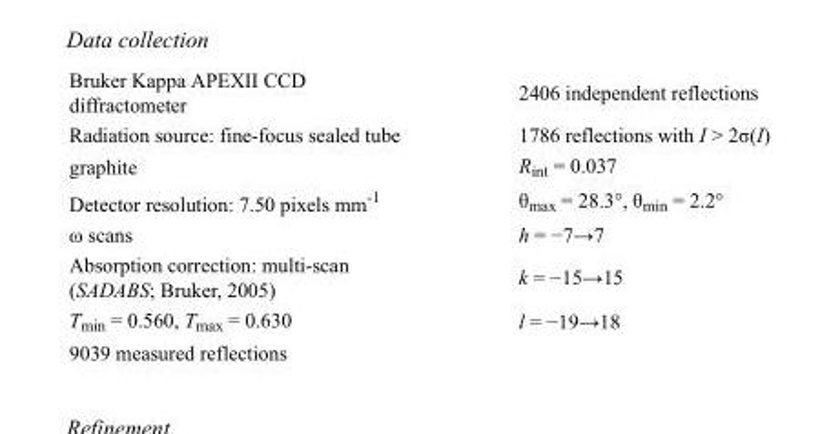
<table><tbody><tr><td>Bruker Kappa APEXII CCD diffractometer</td><td>2406 independent reflections</td></tr><tr><td>Radiation source: fine-focus sealed tube</td><td>1786 reflections with I &gt; 2σ(I)</td></tr><tr><td>graphite</td><td>R<sub>int</sub> = 0.037</td></tr><tr><td>Detector resolution: 7.50 pixels mm<sup>-1</sup></td><td>θ<sub>max</sub> = 28.3°, θ<sub>min</sub> = 2.2°</td></tr><tr><td>ω scans</td><td>h = −7→7</td></tr><tr><td>Absorption correction: multi-scan (SADABS; Bruker, 2005)</td><td>k = −15→15</td></tr><tr><td>T<sub>min</sub> = 0.560, T<sub>max</sub> = 0.630</td><td>l = −19→18</td></tr><tr><td>9039 measured reflections</td><td></td></tr></tbody></table>